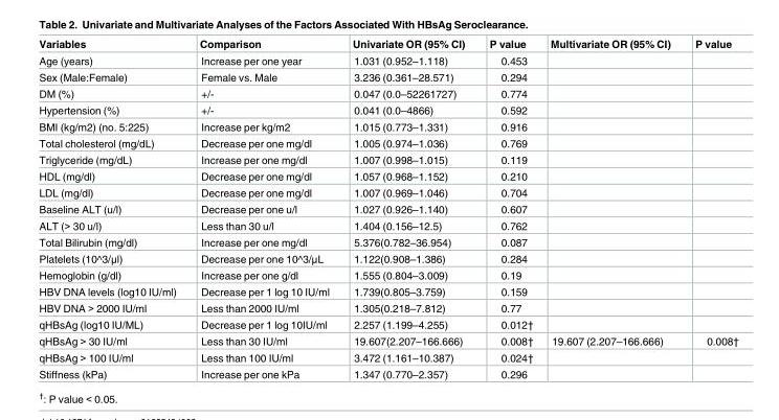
<table><thead><tr><td>Variables</td><td>Comparison</td><td>Univariate OR (95% CI)</td><td>P value</td><td>Multivariate OR (95% CI)</td><td>P value</td></tr></thead><tbody><tr><td>Age (years)</td><td>Increase per one year</td><td>1.031 (0.952–1.118)</td><td>0.453</td><td></td><td></td></tr><tr><td>Sex (Male:Female)</td><td>Female vs. Male</td><td>3.236 (0.361–28.571)</td><td>0.294</td><td></td><td></td></tr><tr><td>DM (%)</td><td>+/-</td><td>0.047 (0.0–52261727)</td><td>0.774</td><td></td><td></td></tr><tr><td>Hypertension (%)</td><td>+/-</td><td>0.041 (0.0–4866)</td><td>0.592</td><td></td><td></td></tr><tr><td>BMI (kg/m2) (no. 5:225)</td><td>Increase per kg/m2</td><td>1.015 (0.773–1.331)</td><td>0.916</td><td></td><td></td></tr><tr><td>Total cholesterol (mg/dL)</td><td>Decrease per one mg/dl</td><td>1.005 (0.974–1.036)</td><td>0.769</td><td></td><td></td></tr><tr><td>Triglyceride (mg/dL)</td><td>Increase per one mg/dl</td><td>1.007 (0.998–1.015)</td><td>0.119</td><td></td><td></td></tr><tr><td>HDL (mg/dl)</td><td>Decrease per one mg/dl</td><td>1.057 (0.968–1.152)</td><td>0.210</td><td></td><td></td></tr><tr><td>LDL (mg/dl)</td><td>Decrease per one mg/dl</td><td>1.007 (0.969–1.046)</td><td>0.704</td><td></td><td></td></tr><tr><td>Baseline ALT (u/l)</td><td>Decrease per one u/l</td><td>1.027 (0.926–1.140)</td><td>0.607</td><td></td><td></td></tr><tr><td>ALT (&gt; 30 u/l)</td><td>Less than 30 u/l</td><td>1.404 (0.156–12.5)</td><td>0.762</td><td></td><td></td></tr><tr><td>Total Bilirubin (mg/dl)</td><td>Increase per one mg/dl</td><td>5.376(0.782–36.954)</td><td>0.087</td><td></td><td></td></tr><tr><td>Platelets (10^3/μl)</td><td>Decrease per one 10^3/μL</td><td>1.122(0.908–1.386)</td><td>0.284</td><td></td><td></td></tr><tr><td>Hemoglobin (g/dl)</td><td>Increase per one g/dl</td><td>1.555 (0.804–3.009)</td><td>0.19</td><td></td><td></td></tr><tr><td>HBV DNA levels (log10 IU/ml)</td><td>Decrease per 1 log 10 IU/ml</td><td>1.739(0.805–3.759)</td><td>0.159</td><td></td><td></td></tr><tr><td>HBV DNA &gt; 2000 IU/ml</td><td>Less than 2000 IU/ml</td><td>1.305(0.218–7.812)</td><td>0.77</td><td></td><td></td></tr><tr><td>qHBsAg (log10 IU/ML)</td><td>Decrease per 1 log 10IU/ml</td><td>2.257 (1.199–4.255)</td><td>0.012†</td><td></td><td></td></tr><tr><td>qHBsAg &gt; 30 IU/ml</td><td>Less than 30 IU/ml</td><td>19.607(2.207–166.666)</td><td>0.008†</td><td>19.607 (2.207–166.666)</td><td>0.008†</td></tr><tr><td>qHBsAg &gt; 100 IU/ml</td><td>Less than 100 IU/ml</td><td>3.472 (1.161–10.387)</td><td>0.024†</td><td></td><td></td></tr><tr><td>Stiffness (kPa)</td><td>Increase per one kPa</td><td>1.347 (0.770–2.357)</td><td>0.296</td><td></td><td></td></tr></tbody></table>